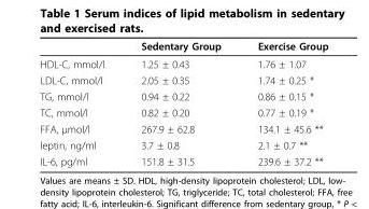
<table><thead><tr><td></td><td>Sedentary Group</td><td>Exercise Group</td></tr></thead><tbody><tr><td>HDL-C, mmol/l</td><td>1.25 ± 0.43</td><td>1.76 ± 1.07</td></tr><tr><td>LDL-C, mmol/l</td><td>2.05 ± 0.35</td><td>1.74 ± 0.25 *</td></tr><tr><td>TG, mmol/l</td><td>0.94 ± 0.22</td><td>0.86 ± 0.15 *</td></tr><tr><td>TC, mmol/l</td><td>0.82 ± 0.20</td><td>0.77 ± 0.19 *</td></tr><tr><td>FFA, μmol/l</td><td>267.9 ± 62.8</td><td>134.1 ± 45.6 **</td></tr><tr><td>leptin, ng/ml</td><td>3.7 ± 0.8</td><td>2.1 ± 0.7 **</td></tr><tr><td>IL-6, pg/ml</td><td>151.8 ± 31.5</td><td>239.6 ± 37.2 **</td></tr></tbody></table>